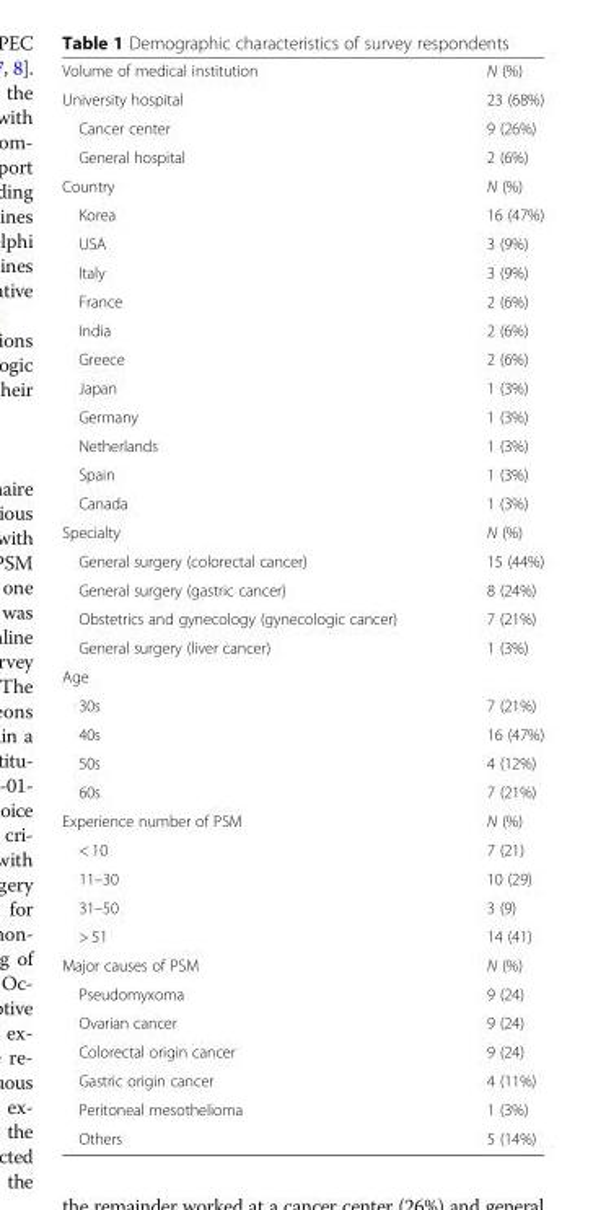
<table><tbody><tr><td>Volume of medical institution</td><td>N (%)</td></tr><tr><td>University hospital</td><td>23 (68%)</td></tr><tr><td>Cancer center</td><td>9 (26%)</td></tr><tr><td>General hospital</td><td>2 (6%)</td></tr><tr><td>Country</td><td>N (%)</td></tr><tr><td>Korea</td><td>16 (47%)</td></tr><tr><td>USA</td><td>3 (9%)</td></tr><tr><td>Italy</td><td>3 (9%)</td></tr><tr><td>France</td><td>2 (6%)</td></tr><tr><td>India</td><td>2 (6%)</td></tr><tr><td>Greece</td><td>2 (6%)</td></tr><tr><td>Japan</td><td>1 (3%)</td></tr><tr><td>Germany</td><td>1 (3%)</td></tr><tr><td>Netherlands</td><td>1 (3%)</td></tr><tr><td>Spain</td><td>1 (3%)</td></tr><tr><td>Canada</td><td>1 (3%)</td></tr><tr><td>Specialty</td><td>N (%)</td></tr><tr><td>General surgery (colorectal cancer)</td><td>15 (44%)</td></tr><tr><td>General surgery (gastric cancer)</td><td>8 (24%)</td></tr><tr><td>Obstetrics and gynecology (gynecologic cancer)</td><td>7 (21%)</td></tr><tr><td>General surgery (liver cancer)</td><td>1 (3%)</td></tr><tr><td colspan="2">Age</td></tr><tr><td>30s</td><td>7 (21%)</td></tr><tr><td>40s</td><td>16 (47%)</td></tr><tr><td>50s</td><td>4 (12%)</td></tr><tr><td>60s</td><td>7 (21%)</td></tr><tr><td>Experience number of PSM</td><td>N (%)</td></tr><tr><td>&lt; 10</td><td>7 (21)</td></tr><tr><td>11–30</td><td>10 (29)</td></tr><tr><td>31–50</td><td>3 (9)</td></tr><tr><td>&gt; 51</td><td>14 (41)</td></tr><tr><td>Major causes of PSM</td><td>N (%)</td></tr><tr><td>Pseudomyxoma</td><td>9 (24)</td></tr><tr><td>Ovarian cancer</td><td>9 (24)</td></tr><tr><td>Colorectal origin cancer</td><td>9 (24)</td></tr><tr><td>Gastric origin cancer</td><td>4 (11%)</td></tr><tr><td>Peritoneal mesothelioma</td><td>1 (3%)</td></tr><tr><td>Others</td><td>5 (14%)</td></tr></tbody></table>